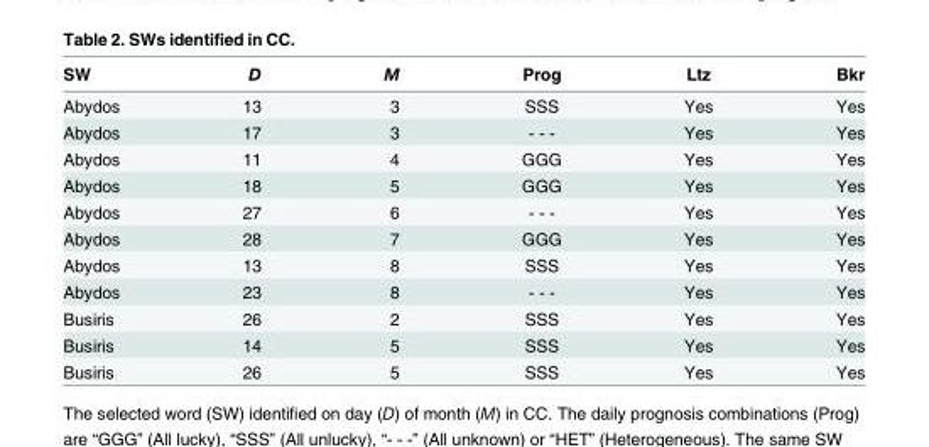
<table><thead><tr><td>SW</td><td>D</td><td>M</td><td>Prog</td><td>Ltz</td><td>Bkr</td></tr></thead><tbody><tr><td>Abydos</td><td>13</td><td>3</td><td>SSS</td><td>Yes</td><td>Yes</td></tr><tr><td>Abydos</td><td>17</td><td>3</td><td>- - -</td><td>Yes</td><td>Yes</td></tr><tr><td>Abydos</td><td>11</td><td>4</td><td>GGG</td><td>Yes</td><td>Yes</td></tr><tr><td>Abydos</td><td>18</td><td>5</td><td>GGG</td><td>Yes</td><td>Yes</td></tr><tr><td>Abydos</td><td>27</td><td>6</td><td>- - -</td><td>Yes</td><td>Yes</td></tr><tr><td>Abydos</td><td>28</td><td>7</td><td>GGG</td><td>Yes</td><td>Yes</td></tr><tr><td>Abydos</td><td>13</td><td>8</td><td>SSS</td><td>Yes</td><td>Yes</td></tr><tr><td>Abydos</td><td>23</td><td>8</td><td>- - -</td><td>Yes</td><td>Yes</td></tr><tr><td>Busiris</td><td>26</td><td>2</td><td>SSS</td><td>Yes</td><td>Yes</td></tr><tr><td>Busiris</td><td>14</td><td>5</td><td>SSS</td><td>Yes</td><td>Yes</td></tr><tr><td>Busiris</td><td>26</td><td>5</td><td>SSS</td><td>Yes</td><td>Yes</td></tr></tbody></table>